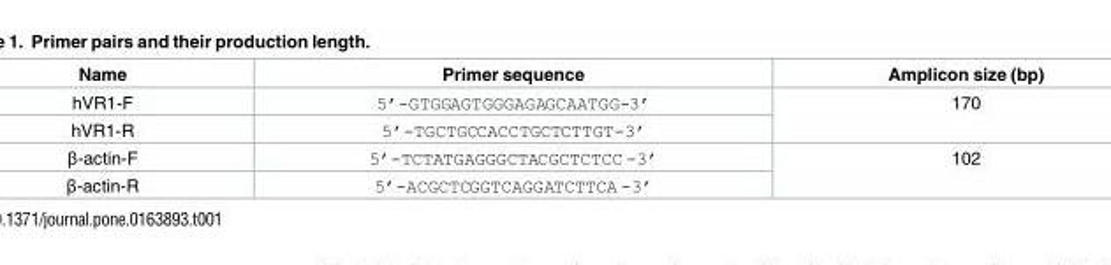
<table><thead><tr><td>Name</td><td>Primer sequence</td><td>Amplicon size (bp)</td></tr></thead><tbody><tr><td>hVR1-F</td><td>5’-GTGGAGTGGGAGAGCAATGG-3’</td><td rowspan="2">170</td></tr><tr><td>hVR1-R</td><td>5’-TGCTGCCACCTGCTCTTGT-3’</td></tr><tr><td>β-actin-F</td><td>5’-TCTATGAGGGCTACGCTCTCC -3’</td><td rowspan="2">102</td></tr><tr><td>β-actin-R</td><td>5’-ACGCTCGGTCAGGATCTTCA -3’</td></tr></tbody></table>